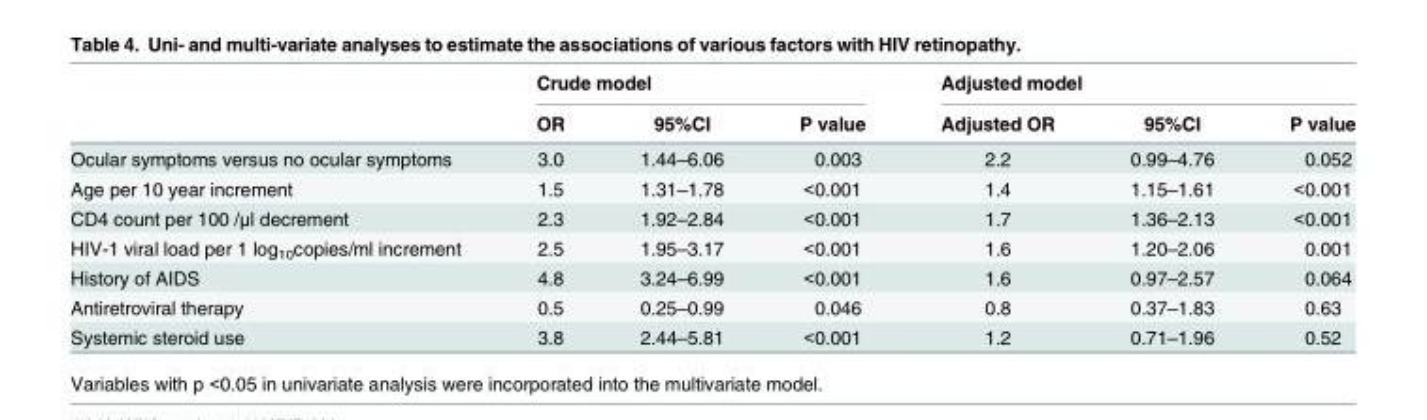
<table><thead><tr><td rowspan="2"></td><td colspan="3">Crude model</td><td colspan="3">Adjusted model</td></tr><tr><td>OR</td><td>95%CI</td><td>P value</td><td>Adjusted OR</td><td>95%CI</td><td>P value</td></tr></thead><tbody><tr><td>Ocular symptoms versus no ocular symptoms</td><td>3.0</td><td>1.44–6.06</td><td>0.003</td><td>2.2</td><td>0.99–4.76</td><td>0.052</td></tr><tr><td>Age per 10 year increment</td><td>1.5</td><td>1.31–1.78</td><td>&lt;0.001</td><td>1.4</td><td>1.15–1.61</td><td>&lt;0.001</td></tr><tr><td>CD4 count per 100 /μl decrement</td><td>2.3</td><td>1.92–2.84</td><td>&lt;0.001</td><td>1.7</td><td>1.36–2.13</td><td>&lt;0.001</td></tr><tr><td>HIV-1 viral load per 1 log<sub>10</sub>copies/ml increment</td><td>2.5</td><td>1.95–3.17</td><td>&lt;0.001</td><td>1.6</td><td>1.20–2.06</td><td>0.001</td></tr><tr><td>History of AIDS</td><td>4.8</td><td>3.24–6.99</td><td>&lt;0.001</td><td>1.6</td><td>0.97–2.57</td><td>0.064</td></tr><tr><td>Antiretroviral therapy</td><td>0.5</td><td>0.25–0.99</td><td>0.046</td><td>0.8</td><td>0.37–1.83</td><td>0.63</td></tr><tr><td>Systemic steroid use</td><td>3.8</td><td>2.44–5.81</td><td>&lt;0.001</td><td>1.2</td><td>0.71–1.96</td><td>0.52</td></tr></tbody></table>